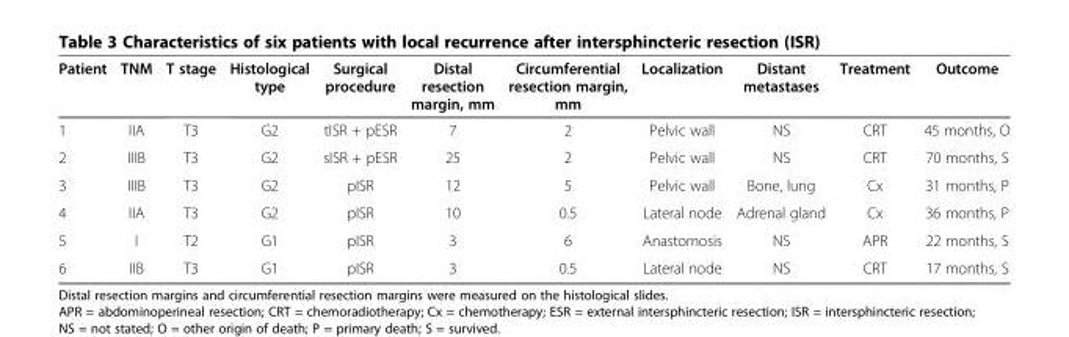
<table><thead><tr><td>Patient</td><td>TNM</td><td>T stage</td><td>Histological type</td><td>Surgical procedure</td><td>Distal resection margin, mm</td><td>Circumferential resection margin, mm</td><td>Localization</td><td>Distant metastases</td><td>Treatment</td><td>Outcome</td></tr></thead><tbody><tr><td>1</td><td>IIA</td><td>T3</td><td>G2</td><td>tISR + pESR</td><td>7</td><td>2</td><td>Pelvic wall</td><td>NS</td><td>CRT</td><td>45 months, O</td></tr><tr><td>2</td><td>IIIB</td><td>T3</td><td>G2</td><td>sISR + pESR</td><td>25</td><td>2</td><td>Pelvic wall</td><td>NS</td><td>CRT</td><td>70 months, S</td></tr><tr><td>3</td><td>IIIB</td><td>T3</td><td>G2</td><td>pISR</td><td>12</td><td>5</td><td>Pelvic wall</td><td>Bone, lung</td><td>Cx</td><td>31 months, P</td></tr><tr><td>4</td><td>IIA</td><td>T3</td><td>G2</td><td>pISR</td><td>10</td><td>0.5</td><td>Lateral node</td><td>Adrenal gland</td><td>Cx</td><td>36 months, P</td></tr><tr><td>5</td><td>I</td><td>T2</td><td>G1</td><td>pISR</td><td>3</td><td>6</td><td>Anastomosis</td><td>NS</td><td>APR</td><td>22 months, S</td></tr><tr><td>6</td><td>IIB</td><td>T3</td><td>G1</td><td>pISR</td><td>3</td><td>0.5</td><td>Lateral node</td><td>NS</td><td>CRT</td><td>17 months, S</td></tr></tbody></table>